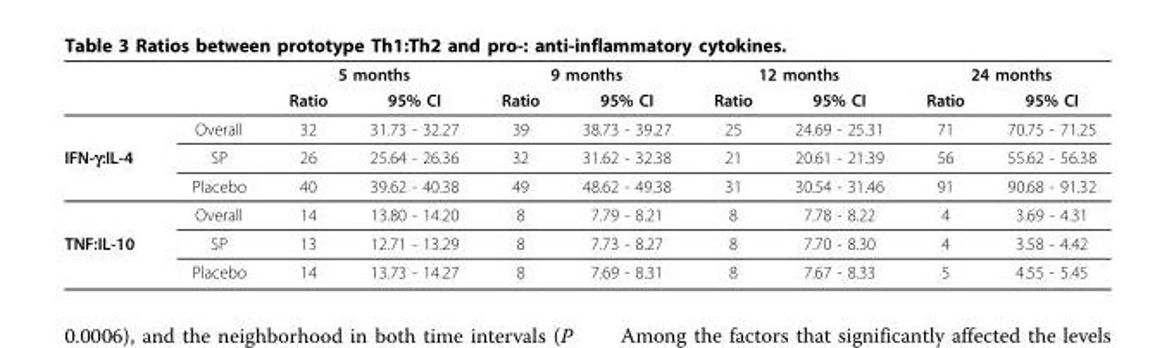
<table><thead><tr><td rowspan="2"></td><td rowspan="2"></td><td colspan="2">5 months</td><td colspan="2">9 months</td><td colspan="2">12 months</td><td colspan="2">24 months</td></tr><tr><td>Ratio</td><td>95% CI</td><td>Ratio</td><td>95% CI</td><td>Ratio</td><td>95% CI</td><td>Ratio</td><td>95% CI</td></tr></thead><tbody><tr><td></td><td>Overall</td><td>32</td><td>31.73 - 32.27</td><td>39</td><td>38.73 - 39.27</td><td>25</td><td>24.69 - 25.31</td><td>71</td><td>70.75 - 71.25</td></tr><tr><td rowspan="3">IFN-γ:IL-4</td><td>SP</td><td>26</td><td>25.64 - 26.36</td><td>32</td><td>31.62 - 32.38</td><td>21</td><td>20.61 - 21.39</td><td>56</td><td>55.62 - 56.38</td></tr><tr><td>Placebo</td><td>40</td><td>39.62 - 40.38</td><td>49</td><td>48.62 - 49.38</td><td>31</td><td>30.54 - 31.46</td><td>91</td><td>90.68 - 91.32</td></tr><tr><td>Overall</td><td>14</td><td>13.80 - 14.20</td><td>8</td><td>7.79 - 8.21</td><td>8</td><td>7.78 - 8.22</td><td>4</td><td>3.69 - 4.31</td></tr><tr><td rowspan="2">TNF:IL-10</td><td>SP</td><td>13</td><td>12.71 - 13.29</td><td>8</td><td>7.73 - 8.27</td><td>8</td><td>7.70 - 8.30</td><td>4</td><td>3.58 - 4.42</td></tr><tr><td>Placebo</td><td>14</td><td>13.73 - 14.27</td><td>8</td><td>7.69 - 8.31</td><td>8</td><td>7.67 - 8.33</td><td>5</td><td>4.55 - 5.45</td></tr></tbody></table>